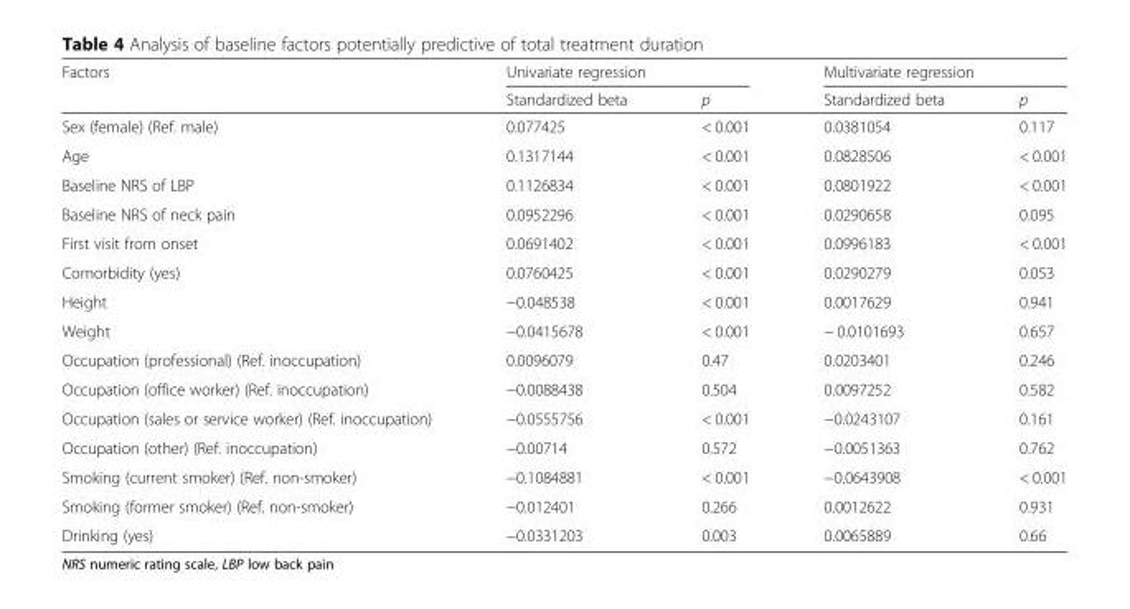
<table><thead><tr><td rowspan="2">Factors</td><td colspan="2">Univariate regression</td><td colspan="2">Multivariate regression</td></tr><tr><td>Standardized beta</td><td>p</td><td>Standardized beta</td><td>p</td></tr></thead><tbody><tr><td>Sex (female) (Ref. male)</td><td>0.077425</td><td>&lt; 0.001</td><td>0.0381054</td><td>0.117</td></tr><tr><td>Age</td><td>0.1317144</td><td>&lt; 0.001</td><td>0.0828506</td><td>&lt; 0.001</td></tr><tr><td>Baseline NRS of LBP</td><td>0.1126834</td><td>&lt; 0.001</td><td>0.0801922</td><td>&lt; 0.001</td></tr><tr><td>Baseline NRS of neck pain</td><td>0.0952296</td><td>&lt; 0.001</td><td>0.0290658</td><td>0.095</td></tr><tr><td>First visit from onset</td><td>0.0691402</td><td>&lt; 0.001</td><td>0.0996183</td><td>&lt; 0.001</td></tr><tr><td>Comorbidity (yes)</td><td>0.0760425</td><td>&lt; 0.001</td><td>0.0290279</td><td>0.053</td></tr><tr><td>Height</td><td>−0.048538</td><td>&lt; 0.001</td><td>0.0017629</td><td>0.941</td></tr><tr><td>Weight</td><td>−0.0415678</td><td>&lt; 0.001</td><td>− 0.0101693</td><td>0.657</td></tr><tr><td>Occupation (professional) (Ref. inoccupation)</td><td>0.0096079</td><td>0.47</td><td>0.0203401</td><td>0.246</td></tr><tr><td>Occupation (office worker) (Ref. inoccupation)</td><td>−0.0088438</td><td>0.504</td><td>0.0097252</td><td>0.582</td></tr><tr><td>Occupation (sales or service worker) (Ref. inoccupation)</td><td>−0.0555756</td><td>&lt; 0.001</td><td>−0.0243107</td><td>0.161</td></tr><tr><td>Occupation (other) (Ref. inoccupation)</td><td>−0.00714</td><td>0.572</td><td>−0.0051363</td><td>0.762</td></tr><tr><td>Smoking (current smoker) (Ref. non-smoker)</td><td>−0.1084881</td><td>&lt; 0.001</td><td>−0.0643908</td><td>&lt; 0.001</td></tr><tr><td>Smoking (former smoker) (Ref. non-smoker)</td><td>−0.012401</td><td>0.266</td><td>0.0012622</td><td>0.931</td></tr><tr><td>Drinking (yes)</td><td>−0.0331203</td><td>0.003</td><td>0.0065889</td><td>0.66</td></tr></tbody></table>